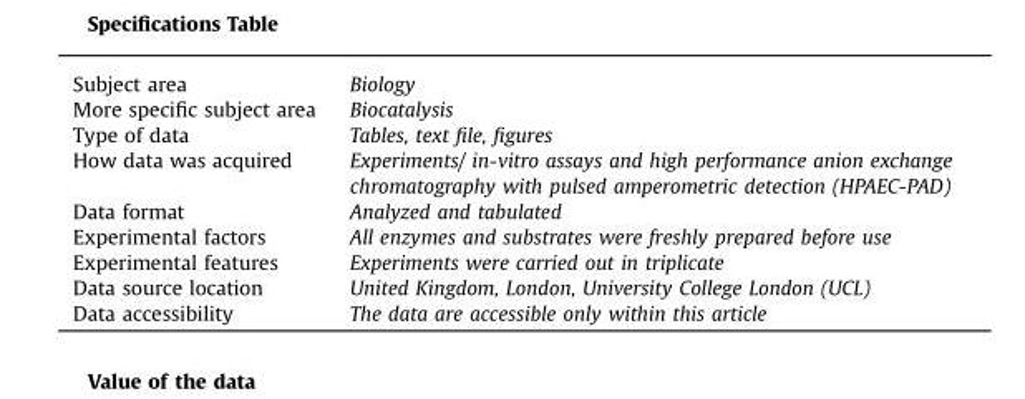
<table><tbody><tr><td>Subject area</td><td>Biology</td></tr><tr><td>More specific subject area</td><td>Biocatalysis</td></tr><tr><td>Type of data</td><td>Tables, text file, figures</td></tr><tr><td>How data was acquired</td><td>Experiments/ in-vitro assays and high performance anion exchange chromatography with pulsed amperometric detection (HPAEC-PAD)</td></tr><tr><td>Data format</td><td>Analyzed and tabulated</td></tr><tr><td>Experimental factors</td><td>All enzymes and substrates were freshly prepared before use</td></tr><tr><td>Experimental features</td><td>Experiments were carried out in triplicate</td></tr><tr><td>Data source location</td><td>United Kingdom, London, University College London (UCL)</td></tr><tr><td>Data accessibility</td><td>The data are accessible only within this article</td></tr></tbody></table>